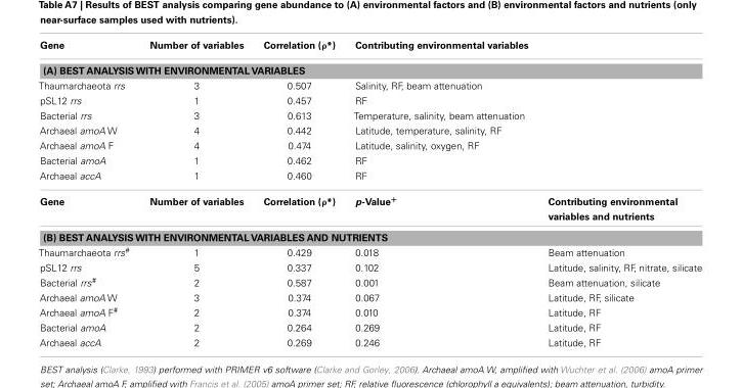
<table><thead><tr><td>Gene</td><td>Number of variables</td><td>Correlation (ρ*)</td><td>Contributing environmental variables</td><td></td></tr></thead><tbody><tr><td colspan="5">(A) BEST ANALYSIS WITH ENVIRONMENTAL VARIABLES</td></tr><tr><td>Thaumarchaeota rrs</td><td>3</td><td>0.507</td><td>Salinity, RF, beam attenuation</td><td></td></tr><tr><td>pSL12 rrs</td><td>1</td><td>0.457</td><td>RF</td><td></td></tr><tr><td>Bacterial rrs</td><td>3</td><td>0.613</td><td>Temperature, salinity, beam attenuation</td><td></td></tr><tr><td>Archaeal amoA W</td><td>4</td><td>0.442</td><td>Latitude, temperature, salinity, RF</td><td></td></tr><tr><td>Archaeal amoA F</td><td>4</td><td>0.474</td><td>Latitude, salinity, oxygen, RF</td><td></td></tr><tr><td>Bacterial amoA</td><td>1</td><td>0.462</td><td>RF</td><td></td></tr><tr><td>Archaeal accA</td><td>1</td><td>0.460</td><td>RF</td><td></td></tr><tr><td>Gene</td><td>Number of variables</td><td>Correlation (ρ*)</td><td>p-Value<sup>+</sup></td><td>Contributing environmental variables and nutrients</td></tr><tr><td colspan="5">(B) BEST ANALYSIS WITH ENVIRONMENTAL VARIABLES AND NUTRIENTS</td></tr><tr><td>Thaumarchaeota rrs<sup>#</sup></td><td>1</td><td>0.429</td><td>0.018</td><td>Beam attenuation</td></tr><tr><td>pSL12 rrs</td><td>5</td><td>0.337</td><td>0.102</td><td>Latitude, salinity, RF, nitrate, silicate</td></tr><tr><td>Bacterial rrs<sup>#</sup></td><td>2</td><td>0.587</td><td>0.001</td><td>Beam attenuation, silicate</td></tr><tr><td>Archaeal amoA W</td><td>3</td><td>0.374</td><td>0.067</td><td>Latitude, RF, silicate</td></tr><tr><td>Archaeal amoA F<sup>#</sup></td><td>2</td><td>0.374</td><td>0.010</td><td>Latitude, RF</td></tr><tr><td>Bacterial amoA</td><td>2</td><td>0.264</td><td>0.269</td><td>Latitude, RF</td></tr><tr><td>Archaeal accA</td><td>2</td><td>0.269</td><td>0.246</td><td>Latitude, RF</td></tr></tbody></table>